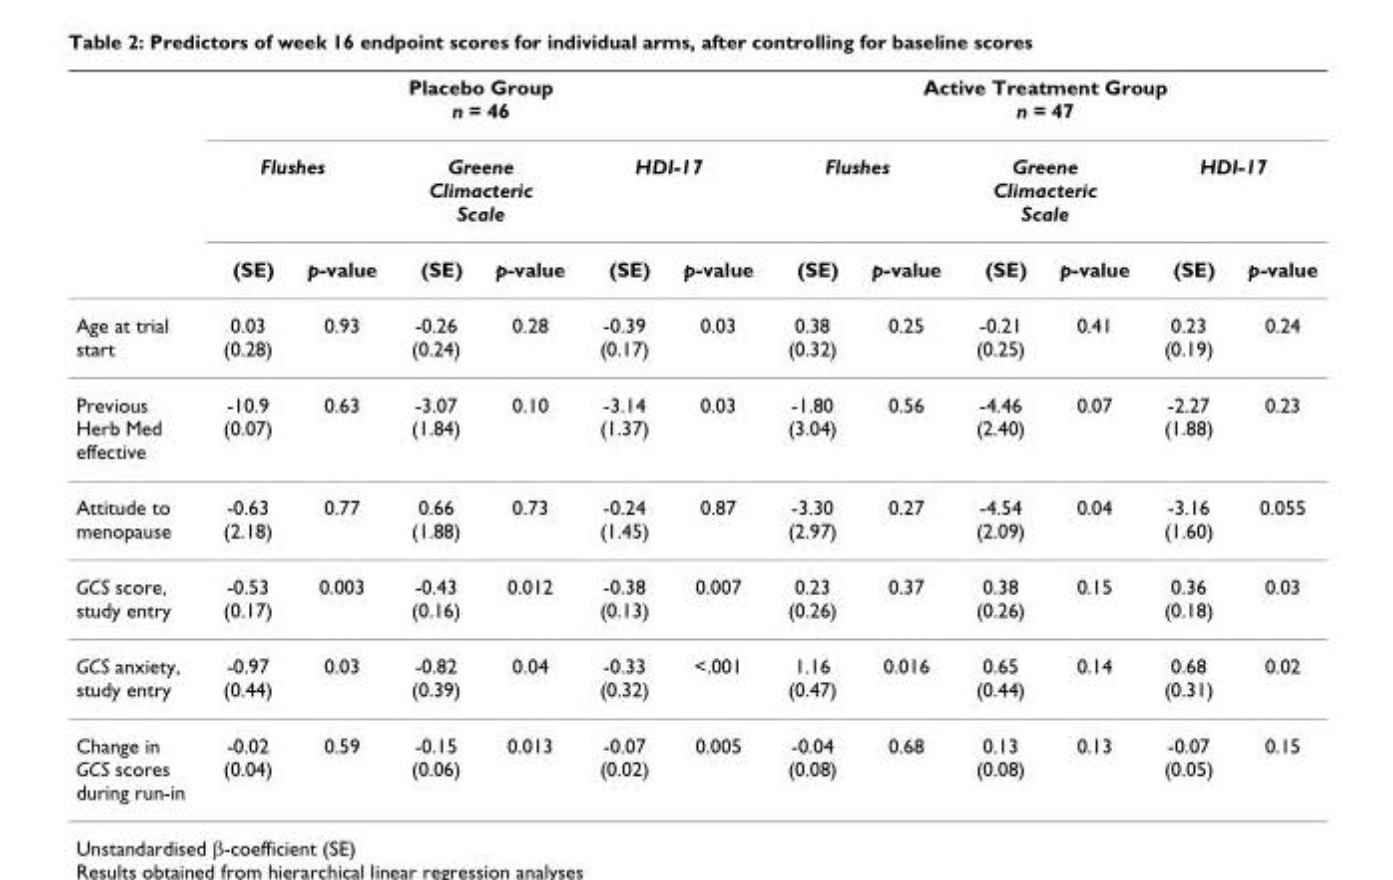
<table><thead><tr><td rowspan="3"></td><td colspan="6">Placebo Group n = 46</td><td colspan="6">Active Treatment Group n = 47</td></tr><tr><td colspan="2">Flushes</td><td colspan="2">Greene Climacteric Scale</td><td colspan="2">HDI-17</td><td colspan="2">Flushes</td><td colspan="2">Greene Climacteric Scale</td><td colspan="2">HDI-17</td></tr><tr><td>(SE)</td><td>p-value</td><td>(SE)</td><td>p-value</td><td>(SE)</td><td>p-value</td><td>(SE)</td><td>p-value</td><td>(SE)</td><td>p-value</td><td>(SE)</td><td>p-value</td></tr></thead><tbody><tr><td>Age at trial start</td><td>0.03 (0.28)</td><td>0.93</td><td>-0.26 (0.24)</td><td>0.28</td><td>-0.39 (0.17)</td><td>0.03</td><td>0.38 (0.32)</td><td>0.25</td><td>-0.21 (0.25)</td><td>0.41</td><td>0.23 (0.19)</td><td>0.24</td></tr><tr><td>Previous Herb Med effective</td><td>-10.9 (0.07)</td><td>0.63</td><td>-3.07 (1.84)</td><td>0.10</td><td>-3.14 (1.37)</td><td>0.03</td><td>-1.80 (3.04)</td><td>0.56</td><td>-4.46 (2.40)</td><td>0.07</td><td>-2.27 (1.88)</td><td>0.23</td></tr><tr><td>Attitude to menopause</td><td>-0.63 (2.18)</td><td>0.77</td><td>0.66 (1.88)</td><td>0.73</td><td>-0.24 (1.45)</td><td>0.87</td><td>-3.30 (2.97)</td><td>0.27</td><td>-4.54 (2.09)</td><td>0.04</td><td>-3.16 (1.60)</td><td>0.055</td></tr><tr><td>GCS score, study entry</td><td>-0.53 (0.17)</td><td>0.003</td><td>-0.43 (0.16)</td><td>0.012</td><td>-0.38 (0.13)</td><td>0.007</td><td>0.23 (0.26)</td><td>0.37</td><td>0.38 (0.26)</td><td>0.15</td><td>0.36 (0.18)</td><td>0.03</td></tr><tr><td>GCS anxiety, study entry</td><td>-0.97 (0.44)</td><td>0.03</td><td>-0.82 (0.39)</td><td>0.04</td><td>-0.33 (0.32)</td><td>&lt;.001</td><td>1.16 (0.47)</td><td>0.016</td><td>0.65 (0.44)</td><td>0.14</td><td>0.68 (0.31)</td><td>0.02</td></tr><tr><td>Change in GCS scores during run-in</td><td>-0.02 (0.04)</td><td>0.59</td><td>-0.15 (0.06)</td><td>0.013</td><td>-0.07 (0.02)</td><td>0.005</td><td>-0.04 (0.08)</td><td>0.68</td><td>0.13 (0.08)</td><td>0.13</td><td>-0.07 (0.05)</td><td>0.15</td></tr></tbody></table>